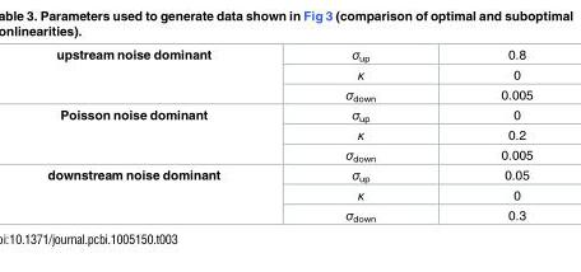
<table><tbody><tr><td rowspan="3">upstream noise dominant</td><td>σ<sub>up</sub></td><td>0.8</td></tr><tr><td>κ</td><td>0</td></tr><tr><td>σ<sub>down</sub></td><td>0.005</td></tr><tr><td rowspan="3">Poisson noise dominant</td><td>σ<sub>up</sub></td><td>0</td></tr><tr><td>κ</td><td>0.2</td></tr><tr><td>σ<sub>down</sub></td><td>0.005</td></tr><tr><td rowspan="3">downstream noise dominant</td><td>σ<sub>up</sub></td><td>0.05</td></tr><tr><td>κ</td><td>0</td></tr><tr><td>σ<sub>down</sub></td><td>0.3</td></tr></tbody></table>